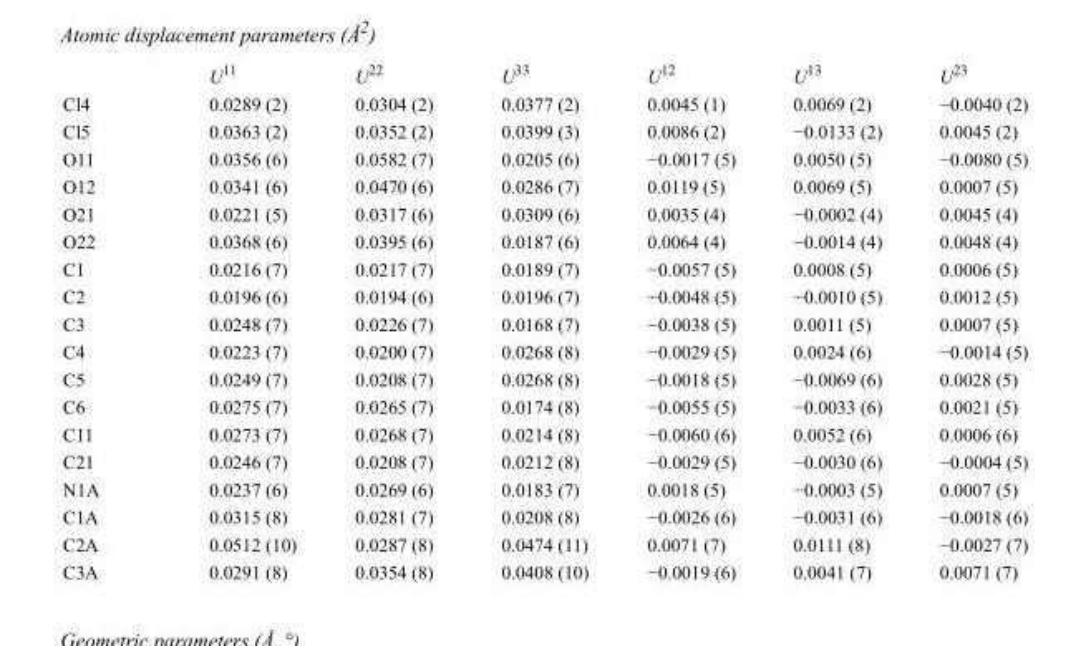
<table><thead><tr><td></td><td>U<sup>11</sup></td><td>U<sup>22</sup></td><td>U<sup>33</sup></td><td>U<sup>12</sup></td><td>U<sup>13</sup></td><td>U<sup>23</sup></td></tr></thead><tbody><tr><td>Cl4</td><td>0.0289 (2)</td><td>0.0304 (2)</td><td>0.0377 (2)</td><td>0.0045 (1)</td><td>0.0069 (2)</td><td>−0.0040 (2)</td></tr><tr><td>Cl5</td><td>0.0363 (2)</td><td>0.0352 (2)</td><td>0.0399 (3)</td><td>0.0086 (2)</td><td>−0.0133 (2)</td><td>0.0045 (2)</td></tr><tr><td>O11</td><td>0.0356 (6)</td><td>0.0582 (7)</td><td>0.0205 (6)</td><td>−0.0017 (5)</td><td>0.0050 (5)</td><td>−0.0080 (5)</td></tr><tr><td>O12</td><td>0.0341 (6)</td><td>0.0470 (6)</td><td>0.0286 (7)</td><td>0.0119 (5)</td><td>0.0069 (5)</td><td>0.0007 (5)</td></tr><tr><td>O21</td><td>0.0221 (5)</td><td>0.0317 (6)</td><td>0.0309 (6)</td><td>0.0035 (4)</td><td>−0.0002 (4)</td><td>0.0045 (4)</td></tr><tr><td>O22</td><td>0.0368 (6)</td><td>0.0395 (6)</td><td>0.0187 (6)</td><td>0.0064 (4)</td><td>−0.0014 (4)</td><td>0.0048 (4)</td></tr><tr><td>C1</td><td>0.0216 (7)</td><td>0.0217 (7)</td><td>0.0189 (7)</td><td>−0.0057 (5)</td><td>0.0008 (5)</td><td>0.0006 (5)</td></tr><tr><td>C2</td><td>0.0196 (6)</td><td>0.0194 (6)</td><td>0.0196 (7)</td><td>−0.0048 (5)</td><td>−0.0010 (5)</td><td>0.0012 (5)</td></tr><tr><td>C3</td><td>0.0248 (7)</td><td>0.0226 (7)</td><td>0.0168 (7)</td><td>−0.0038 (5)</td><td>0.0011 (5)</td><td>0.0007 (5)</td></tr><tr><td>C4</td><td>0.0223 (7)</td><td>0.0200 (7)</td><td>0.0268 (8)</td><td>−0.0029 (5)</td><td>0.0024 (6)</td><td>−0.0014 (5)</td></tr><tr><td>C5</td><td>0.0249 (7)</td><td>0.0208 (7)</td><td>0.0268 (8)</td><td>−0.0018 (5)</td><td>−0.0069 (6)</td><td>0.0028 (5)</td></tr><tr><td>C6</td><td>0.0275 (7)</td><td>0.0265 (7)</td><td>0.0174 (8)</td><td>−0.0055 (5)</td><td>−0.0033 (6)</td><td>0.0021 (5)</td></tr><tr><td>C11</td><td>0.0273 (7)</td><td>0.0268 (7)</td><td>0.0214 (8)</td><td>−0.0060 (6)</td><td>0.0052 (6)</td><td>0.0006 (6)</td></tr><tr><td>C21</td><td>0.0246 (7)</td><td>0.0208 (7)</td><td>0.0212 (8)</td><td>−0.0029 (5)</td><td>−0.0030 (6)</td><td>−0.0004 (5)</td></tr><tr><td>N1A</td><td>0.0237 (6)</td><td>0.0269 (6)</td><td>0.0183 (7)</td><td>0.0018 (5)</td><td>−0.0003 (5)</td><td>0.0007 (5)</td></tr><tr><td>C1A</td><td>0.0315 (8)</td><td>0.0281 (7)</td><td>0.0208 (8)</td><td>−0.0026 (6)</td><td>−0.0031 (6)</td><td>−0.0018 (6)</td></tr><tr><td>C2A</td><td>0.0512 (10)</td><td>0.0287 (8)</td><td>0.0474 (11)</td><td>0.0071 (7)</td><td>0.0111 (8)</td><td>−0.0027 (7)</td></tr><tr><td>C3A</td><td>0.0291 (8)</td><td>0.0354 (8)</td><td>0.0408 (10)</td><td>−0.0019 (6)</td><td>0.0041 (7)</td><td>0.0071 (7)</td></tr></tbody></table>